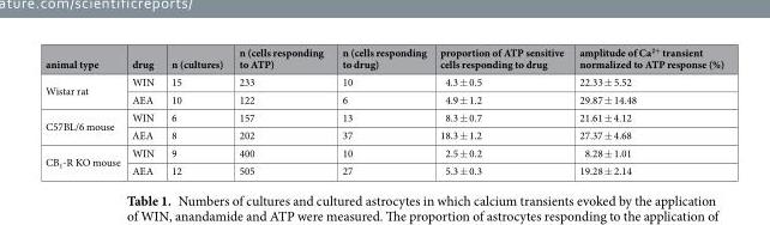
<table><thead><tr><td>animal type</td><td>drug</td><td>n (cultures)</td><td>n (cells responding to ATP)</td><td>n (cells responding to drug)</td><td>proportion of ATP sensitive cells responding to drug</td><td>amplitude of Ca<sup>2+</sup> transient normalized to ATP response (%)</td></tr></thead><tbody><tr><td rowspan="2">Wistar rat</td><td>WIN</td><td>15</td><td>233</td><td>10</td><td>4.3 ± 0.5</td><td>22.33 ± 5.52</td></tr><tr><td>AEA</td><td>10</td><td>122</td><td>6</td><td>4.9 ± 1.2</td><td>29.87 ± 14.48</td></tr><tr><td rowspan="2">C57BL/6 mouse</td><td>WIN</td><td>6</td><td>157</td><td>13</td><td>8.3 ± 0.7</td><td>21.61 ± 4.12</td></tr><tr><td>AEA</td><td>8</td><td>202</td><td>37</td><td>18.3 ± 1.2</td><td>27.37 ± 4.68</td></tr><tr><td rowspan="2">CB<sub>1</sub>-R KO mouse</td><td>WIN</td><td>9</td><td>400</td><td>10</td><td>2.5 ± 0.2</td><td>8.28 ± 1.01</td></tr><tr><td>AEA</td><td>12</td><td>505</td><td>27</td><td>5.3 ± 0.3</td><td>19.28 ± 2.14</td></tr></tbody></table>